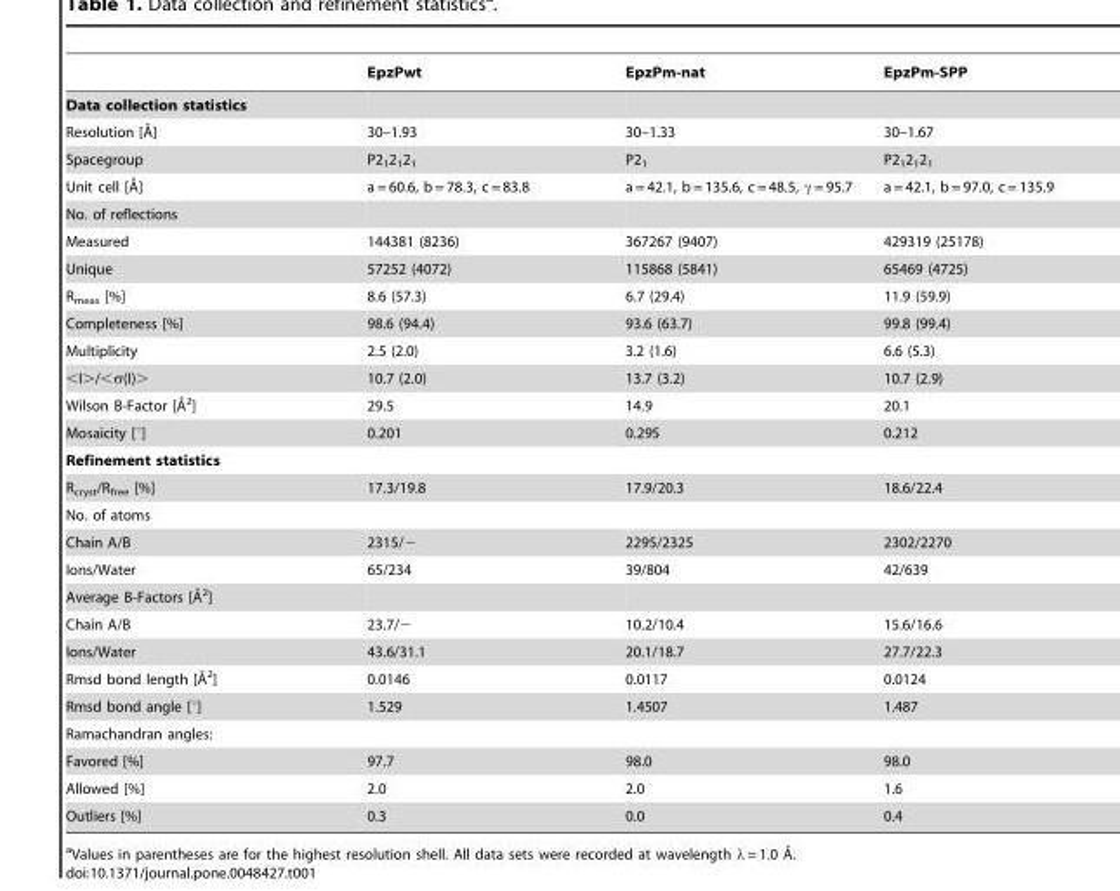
<table><thead><tr><td></td><td>EpzPwt</td><td>EpzPm-nat</td><td>EpzPm-SPP</td></tr></thead><tbody><tr><td colspan="4">Data collection statistics</td></tr><tr><td>Resolution [A˚]</td><td>30–1.93</td><td>30–1.33</td><td>30–1.67</td></tr><tr><td>Spacegroup</td><td>P2<sub>1</sub>2<sub>1</sub>2<sub>1</sub></td><td>P2<sub>1</sub></td><td>P2<sub>1</sub>2<sub>1</sub>2<sub>1</sub></td></tr><tr><td>Unit cell [A˚]</td><td>a = 60.6, b = 78.3, c = 83.8</td><td>a = 42.1, b = 135.6, c = 48.5, γ = 95.7</td><td>a = 42.1, b = 97.0, c = 135.9</td></tr><tr><td colspan="4">No. of reflections</td></tr><tr><td>Measured</td><td>144381 (8236)</td><td>367267 (9407)</td><td>429319 (25178)</td></tr><tr><td>Unique</td><td>57252 (4072)</td><td>115868 (5841)</td><td>65469 (4725)</td></tr><tr><td>R<sub>meas</sub> [%]</td><td>8.6 (57.3)</td><td>6.7 (29.4)</td><td>11.9 (59.9)</td></tr><tr><td>Completeness [%]</td><td>98.6 (94.4)</td><td>93.6 (63.7)</td><td>99.8 (99.4)</td></tr><tr><td>Multiplicity</td><td>2.5 (2.0)</td><td>3.2 (1.6)</td><td>6.6 (5.3)</td></tr><tr><td>&lt;I&gt;/&lt;σ(I)&gt;</td><td>10.7 (2.0)</td><td>13.7 (3.2)</td><td>10.7 (2.9)</td></tr><tr><td>Wilson B-Factor [A˚ 2]</td><td>29.5</td><td>14.9</td><td>20.1</td></tr><tr><td>Mosaicity [°]</td><td>0.201</td><td>0.295</td><td>0.212</td></tr><tr><td colspan="4">Refinement statistics</td></tr><tr><td>R<sub>cryst</sub>/R<sub>free</sub> [%]</td><td>17.3/19.8</td><td>17.9/20.3</td><td>18.6/22.4</td></tr><tr><td colspan="4">No. of atoms</td></tr><tr><td>Chain A/B</td><td>2315/−</td><td>2295/2325</td><td>2302/2270</td></tr><tr><td>Ions/Water</td><td>65/234</td><td>39/804</td><td>42/639</td></tr><tr><td colspan="4">Average B-Factors [A˚2]</td></tr><tr><td>Chain A/B</td><td>23.7/−</td><td>10.2/10.4</td><td>15.6/16.6</td></tr><tr><td>Ions/Water</td><td>43.6/31.1</td><td>20.1/18.7</td><td>27.7/22.3</td></tr><tr><td>Rmsd bond length [A˚ 2]</td><td>0.0146</td><td>0.0117</td><td>0.0124</td></tr><tr><td>Rmsd bond angle [°]</td><td>1.529</td><td>1.4507</td><td>1.487</td></tr><tr><td colspan="4">Ramachandran angles:</td></tr><tr><td>Favored [%]</td><td>97.7</td><td>98.0</td><td>98.0</td></tr><tr><td>Allowed [%]</td><td>2.0</td><td>2.0</td><td>1.6</td></tr><tr><td>Outliers [%]</td><td>0.3</td><td>0.0</td><td>0.4</td></tr></tbody></table>